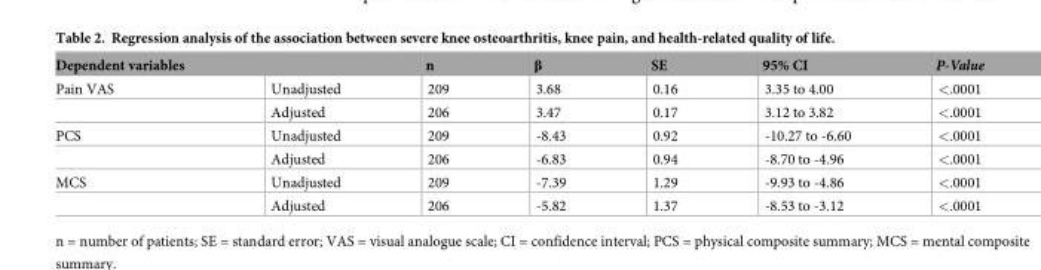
<table><thead><tr><td>Dependent variables</td><td></td><td>n</td><td>β</td><td>SE</td><td>95% CI</td><td>P-Value</td></tr></thead><tbody><tr><td rowspan="2">Pain VAS</td><td>Unadjusted</td><td>209</td><td>3.68</td><td>0.16</td><td>3.35 to 4.00</td><td>&lt;.0001</td></tr><tr><td>Adjusted</td><td>206</td><td>3.47</td><td>0.17</td><td>3.12 to 3.82</td><td>&lt;.0001</td></tr><tr><td rowspan="2">PCS</td><td>Unadjusted</td><td>209</td><td>-8.43</td><td>0.92</td><td>-10.27 to -6.60</td><td>&lt;.0001</td></tr><tr><td>Adjusted</td><td>206</td><td>-6.83</td><td>0.94</td><td>-8.70 to -4.96</td><td>&lt;.0001</td></tr><tr><td rowspan="2">MCS</td><td>Unadjusted</td><td>209</td><td>-7.39</td><td>1.29</td><td>-9.93 to -4.86</td><td>&lt;.0001</td></tr><tr><td>Adjusted</td><td>206</td><td>-5.82</td><td>1.37</td><td>-8.53 to -3.12</td><td>&lt;.0001</td></tr></tbody></table>